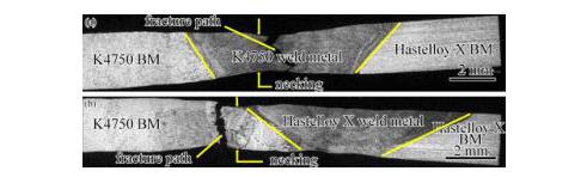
<table><thead><tr><td>Sample</td><td>UTS/MPa</td><td>YS/MPa</td><td>Elongation/%</td><td>Fracture Location</td></tr></thead><tbody><tr><td>K4750BM</td><td>956 ± 26</td><td>690.5 ± 3.5</td><td>5.1 ± 0.8</td><td>/</td></tr><tr><td>Hastelloy X BM</td><td>730</td><td>350</td><td>53</td><td>/</td></tr><tr><td>K4750 joint</td><td>717.9 ± 12.4</td><td>381.5 ± 9.5</td><td>27.7 ± 3.3</td><td>Fusion zone</td></tr><tr><td>Hastelloy X joint</td><td>734.2 ± 18.6</td><td>386 ± 5</td><td>21.1 ± 0.5</td><td>K4750 HAZ</td></tr></tbody></table>